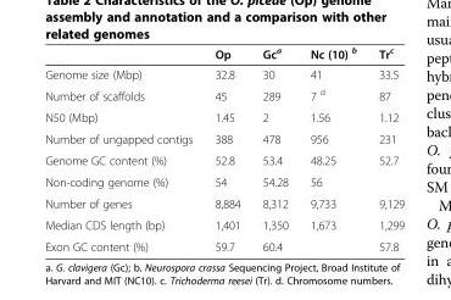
<table><thead><tr><td></td><td>Op</td><td>Gc<sup>a</sup></td><td>Nc (10) <sup>b</sup></td><td>Tr<sup>c</sup></td></tr></thead><tbody><tr><td>Genome size (Mbp)</td><td>32.8</td><td>30</td><td>41</td><td>33.5</td></tr><tr><td>Number of scaffolds</td><td>45</td><td>289</td><td>7 <sup>d</sup></td><td>87</td></tr><tr><td>N50 (Mbp)</td><td>1.45</td><td>2</td><td>1.56</td><td>1.12</td></tr><tr><td>Number of ungapped contigs</td><td>388</td><td>478</td><td>956</td><td>231</td></tr><tr><td>Genome GC content (%)</td><td>52.8</td><td>53.4</td><td>48.25</td><td>52.7</td></tr><tr><td>Non-coding genome (%)</td><td>54</td><td>54.28</td><td>56</td><td></td></tr><tr><td>Number of genes</td><td>8,884</td><td>8,312</td><td>9,733</td><td>9,129</td></tr><tr><td>Median CDS length (bp)</td><td>1,401</td><td>1,350</td><td>1,673</td><td>1,299</td></tr><tr><td>Exon GC content (%)</td><td>59.7</td><td>60.4</td><td></td><td>57.8</td></tr></tbody></table>